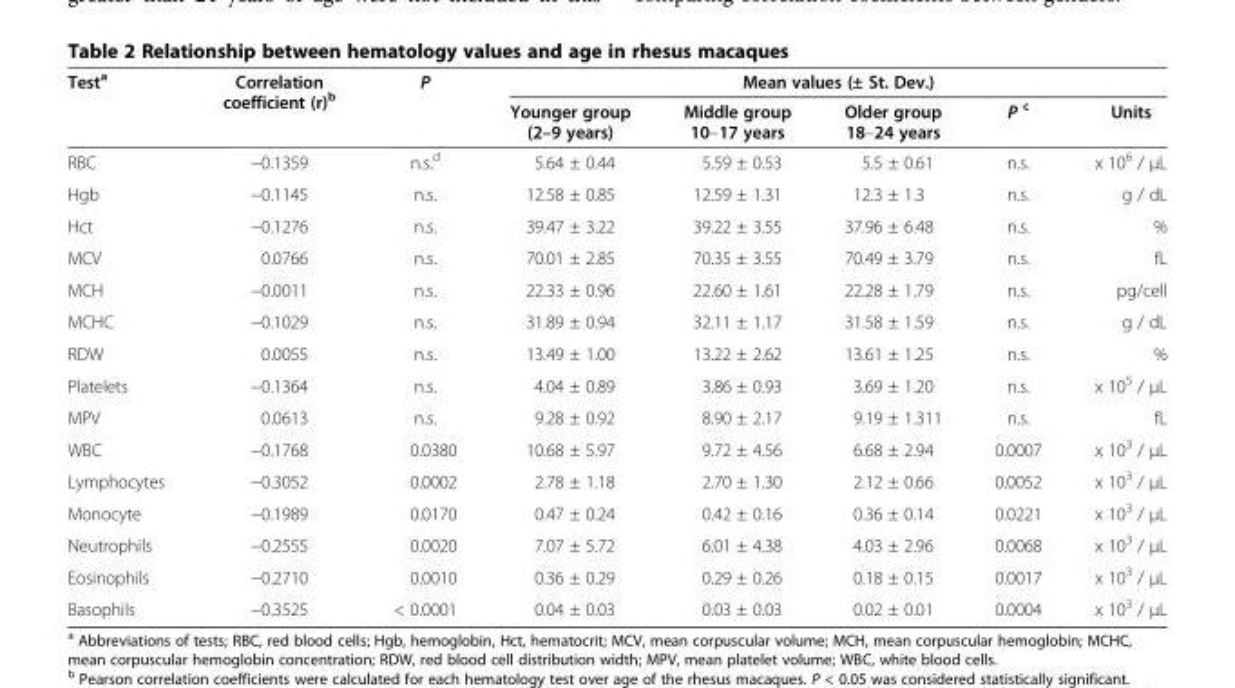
<table><thead><tr><td rowspan="2">Test<sup>a</sup></td><td rowspan="2">Correlation coefficient (r)<sup>b</sup></td><td rowspan="2">P</td><td colspan="5">Mean values (± St. Dev.)</td></tr><tr><td>Younger group (2–9 years)</td><td>Middle group 10–17 years</td><td>Older group 18–24 years</td><td>P <sup>c</sup></td><td>Units</td></tr></thead><tbody><tr><td>RBC</td><td>−0.1359</td><td>n.s.<sup>d</sup></td><td>5.64 ± 0.44</td><td>5.59 ± 0.53</td><td>5.5 ± 0.61</td><td>n.s.</td><td>x 10<sup>6</sup> / μL</td></tr><tr><td>Hgb</td><td>−0.1145</td><td>n.s.</td><td>12.58 ± 0.85</td><td>12.59 ± 1.31</td><td>12.3 ± 1.3</td><td>n.s.</td><td>g / dL</td></tr><tr><td>Hct</td><td>−0.1276</td><td>n.s.</td><td>39.47 ± 3.22</td><td>39.22 ± 3.55</td><td>37.96 ± 6.48</td><td>n.s.</td><td>%</td></tr><tr><td>MCV</td><td>0.0766</td><td>n.s.</td><td>70.01 ± 2.85</td><td>70.35 ± 3.55</td><td>70.49 ± 3.79</td><td>n.s.</td><td>fL</td></tr><tr><td>MCH</td><td>−0.0011</td><td>n.s.</td><td>22.33 ± 0.96</td><td>22.60 ± 1.61</td><td>22.28 ± 1.79</td><td>n.s.</td><td>pg/cell</td></tr><tr><td>MCHC</td><td>−0.1029</td><td>n.s.</td><td>31.89 ± 0.94</td><td>32.11 ± 1.17</td><td>31.58 ± 1.59</td><td>n.s.</td><td>g / dL</td></tr><tr><td>RDW</td><td>0.0055</td><td>n.s.</td><td>13.49 ± 1.00</td><td>13.22 ± 2.62</td><td>13.61 ± 1.25</td><td>n.s.</td><td>%</td></tr><tr><td>Platelets</td><td>−0.1364</td><td>n.s.</td><td>4.04 ± 0.89</td><td>3.86 ± 0.93</td><td>3.69 ± 1.20</td><td>n.s.</td><td>x 10<sup>5</sup> / μL</td></tr><tr><td>MPV</td><td>0.0613</td><td>n.s.</td><td>9.28 ± 0.92</td><td>8.90 ± 2.17</td><td>9.19 ± 1.311</td><td>n.s.</td><td>fL</td></tr><tr><td>WBC</td><td>−0.1768</td><td>0.0380</td><td>10.68 ± 5.97</td><td>9.72 ± 4.56</td><td>6.68 ± 2.94</td><td>0.0007</td><td>x 10<sup>3</sup> / μL</td></tr><tr><td>Lymphocytes</td><td>−0.3052</td><td>0.0002</td><td>2.78 ± 1.18</td><td>2.70 ± 1.30</td><td>2.12 ± 0.66</td><td>0.0052</td><td>x 10<sup>3</sup> / μL</td></tr><tr><td>Monocyte</td><td>−0.1989</td><td>0.0170</td><td>0.47 ± 0.24</td><td>0.42 ± 0.16</td><td>0.36 ± 0.14</td><td>0.0221</td><td>x 10<sup>3</sup> / μL</td></tr><tr><td>Neutrophils</td><td>−0.2555</td><td>0.0020</td><td>7.07 ± 5.72</td><td>6.01 ± 4.38</td><td>4.03 ± 2.96</td><td>0.0068</td><td>x 10<sup>3</sup> / μL</td></tr><tr><td>Eosinophils</td><td>−0.2710</td><td>0.0010</td><td>0.36 ± 0.29</td><td>0.29 ± 0.26</td><td>0.18 ± 0.15</td><td>0.0017</td><td>x 10<sup>3</sup> / μL</td></tr><tr><td>Basophils</td><td>−0.3525</td><td>&lt; 0.0001</td><td>0.04 ± 0.03</td><td>0.03 ± 0.03</td><td>0.02 ± 0.01</td><td>0.0004</td><td>x 10<sup>3</sup> / μL</td></tr></tbody></table>